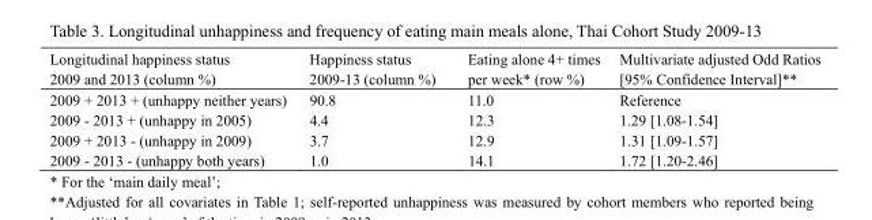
<table><thead><tr><td>Longitudinal happiness status 2009 and 2013 (column %)</td><td>Happiness status 2009-13 (column %)</td><td>Eating alone 4+ times per week* (row %)</td><td>Multivariate adjusted Odd Ratios [95% Confidence Interval]**</td></tr></thead><tbody><tr><td>2009 + 2013 + (unhappy neither years)</td><td>90.8</td><td>11.0</td><td>Reference</td></tr><tr><td>2009 - 2013 + (unhappy in 2005)</td><td>4.4</td><td>12.3</td><td>1.29 [1.08-1.54]</td></tr><tr><td>2009 + 2013 - (unhappy in 2009)</td><td>3.7</td><td>12.9</td><td>1.31 [1.09-1.57]</td></tr><tr><td>2009 - 2013 - (unhappy both years)</td><td>1.0</td><td>14.1</td><td>1.72 [1.20-2.46]</td></tr></tbody></table>